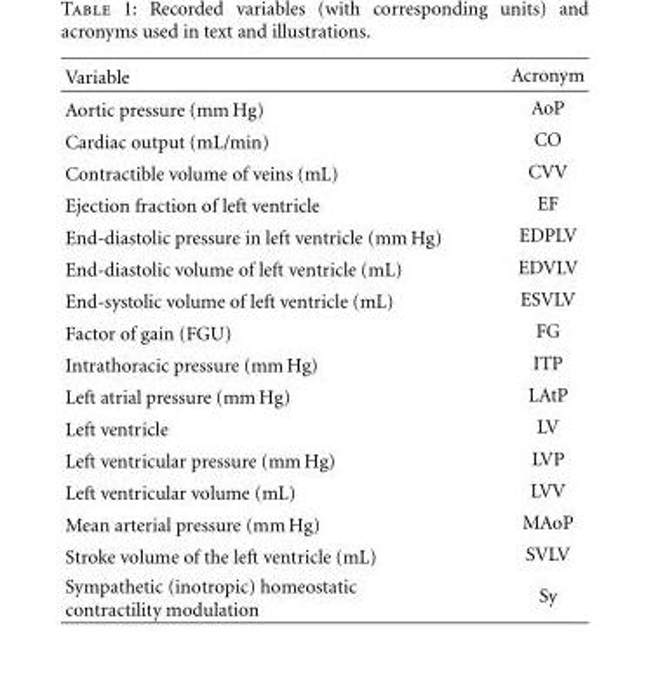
<table><thead><tr><td>Variable</td><td>Acronym</td></tr></thead><tbody><tr><td>Aortic pressure (mm Hg)</td><td>AoP</td></tr><tr><td>Cardiac output (mL/min)</td><td>CO</td></tr><tr><td>Contractible volume of veins (mL)</td><td>CVV</td></tr><tr><td>Ejection fraction of left ventricle</td><td>EF</td></tr><tr><td>End-diastolic pressure in left ventricle (mm Hg)</td><td>EDPLV</td></tr><tr><td>End-diastolic volume of left ventricle (mL)</td><td>EDVLV</td></tr><tr><td>End-systolic volume of left ventricle (mL)</td><td>ESVLV</td></tr><tr><td>Factor of gain (FGU)</td><td>FG</td></tr><tr><td>Intrathoracic pressure (mm Hg)</td><td>ITP</td></tr><tr><td>Left atrial pressure (mm Hg)</td><td>LAtP</td></tr><tr><td>Left ventricle</td><td>LV</td></tr><tr><td>Left ventricular pressure (mm Hg)</td><td>LVP</td></tr><tr><td>Left ventricular volume (mL)</td><td>LVV</td></tr><tr><td>Mean arterial pressure (mm Hg)</td><td>MAoP</td></tr><tr><td>Stroke volume of the left ventricle (mL)</td><td>SVLV</td></tr><tr><td>Sympathetic (inotropic) homeostatic contractility modulation</td><td>Sy</td></tr></tbody></table>